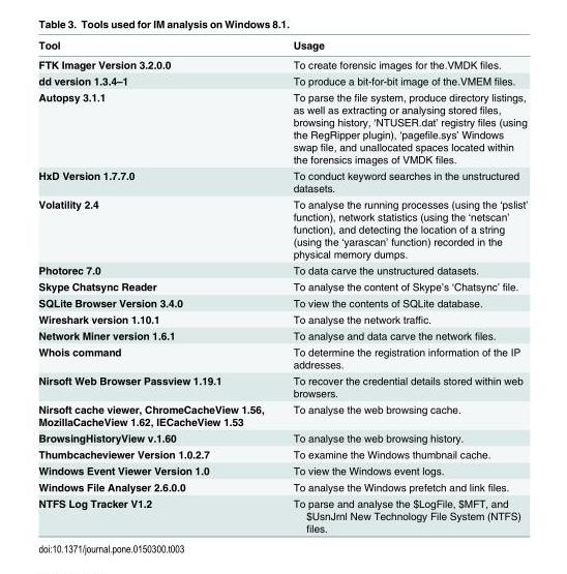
<table><thead><tr><td>Tool</td><td>Usage</td></tr></thead><tbody><tr><td>FTK Imager Version 3.2.0.0</td><td>To create forensic images for the.VMDK files.</td></tr><tr><td>dd version 1.3.4–1</td><td>To produce a bit-for-bit image of the.VMEM files.</td></tr><tr><td>Autopsy 3.1.1</td><td>To parse the file system, produce directory listings, as well as extracting or analysing stored files, browsing history, ‘NTUSER.dat’ registry files (using the RegRipper plugin), ‘pagefile.sys’ Windows swap file, and unallocated spaces located within the forensics images of VMDK files.</td></tr><tr><td>HxD Version 1.7.7.0</td><td>To conduct keyword searches in the unstructured datasets.</td></tr><tr><td>Volatility 2.4</td><td>To analyse the running processes (using the ‘pslist’ function), network statistics (using the ‘netscan’ function), and detecting the location of a string (using the ‘yarascan’ function) recorded in the physical memory dumps.</td></tr><tr><td>Photorec 7.0</td><td>To data carve the unstructured datasets.</td></tr><tr><td>Skype Chatsync Reader</td><td>To analyse the content of Skype’s ‘Chatsync’ file.</td></tr><tr><td>SQLite Browser Version 3.4.0</td><td>To view the contents of SQLite database.</td></tr><tr><td>Wireshark version 1.10.1</td><td>To analyse the network traffic.</td></tr><tr><td>Network Miner version 1.6.1</td><td>To analyse and data carve the network files.</td></tr><tr><td>Whois command</td><td>To determine the registration information of the IP addresses.</td></tr><tr><td>Nirsoft Web Browser Passview 1.19.1</td><td>To recover the credential details stored within web browsers.</td></tr><tr><td>Nirsoft cache viewer, ChromeCacheView 1.56, MozillaCacheView 1.62, IECacheView 1.53</td><td>To analyse the web browsing cache.</td></tr><tr><td>BrowsingHistoryView v.1.60</td><td>To analyse the web browsing history.</td></tr><tr><td>Thumbcacheviewer Version 1.0.2.7</td><td>To examine the Windows thumbnail cache.</td></tr><tr><td>Windows Event Viewer Version 1.0</td><td>To view the Windows event logs.</td></tr><tr><td>Windows File Analyser 2.6.0.0</td><td>To analyse the Windows prefetch and link files.</td></tr><tr><td>NTFS Log Tracker V1.2</td><td>To parse and analyse the $LogFile, $MFT, and $UsnJrnl New Technology File System (NTFS) files.</td></tr></tbody></table>